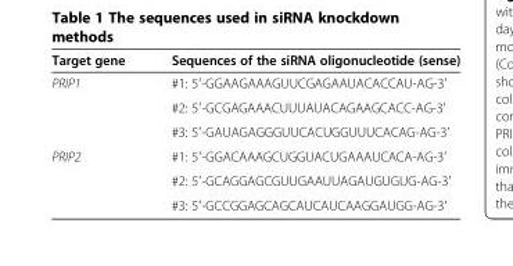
<table><thead><tr><td>Target gene</td><td>Sequences of the siRNA oligonucleotide (sense)</td></tr></thead><tbody><tr><td rowspan="3">PRIP1</td><td>#1: 5′-GGAAGAAAGUUCGAGAAUACACCAU-AG-3′</td></tr><tr><td>#2: 5′-GCGAGAAACUUUAUACAGAAGCACC-AG-3′</td></tr><tr><td>#3: 5′-GAUAGAGGGUUCACUGGUUUCACAG-AG-3′</td></tr><tr><td rowspan="3">PRIP2</td><td>#1: 5′-GGACAAAGCUGGUACUGAAAUCACA-AG-3′</td></tr><tr><td>#2: 5′-GCAGGAGCGUUGAAUUAGAUGUGUG-AG-3′</td></tr><tr><td>#3: 5′-GCCGGAGCAGCAUCAUCAAGGAUGG-AG-3′</td></tr></tbody></table>